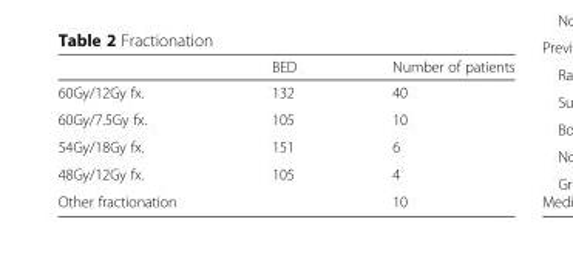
<table><thead><tr><td></td><td>BED</td><td>Number of patients</td></tr></thead><tbody><tr><td>60Gy/12Gy fx.</td><td>132</td><td>40</td></tr><tr><td>60Gy/7.5Gy fx.</td><td>105</td><td>10</td></tr><tr><td>54Gy/18Gy fx.</td><td>151</td><td>6</td></tr><tr><td>48Gy/12Gy fx.</td><td>105</td><td>4</td></tr><tr><td>Other fractionation</td><td></td><td>10</td></tr></tbody></table>